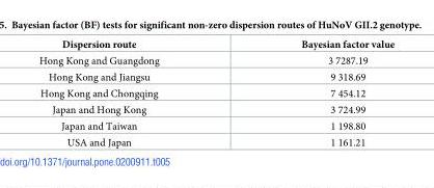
<table><thead><tr><td>Dispersion route</td><td>Bayesian factor value</td></tr></thead><tbody><tr><td>Hong Kong and Guangdong</td><td>3 7287.19</td></tr><tr><td>Hong Kong and Jiangsu</td><td>9 318.69</td></tr><tr><td>Hong Kong and Chongqing</td><td>7 454.12</td></tr><tr><td>Japan and Hong Kong</td><td>3 724.99</td></tr><tr><td>Japan and Taiwan</td><td>1 198.80</td></tr><tr><td>USA and Japan</td><td>1 161.21</td></tr></tbody></table>